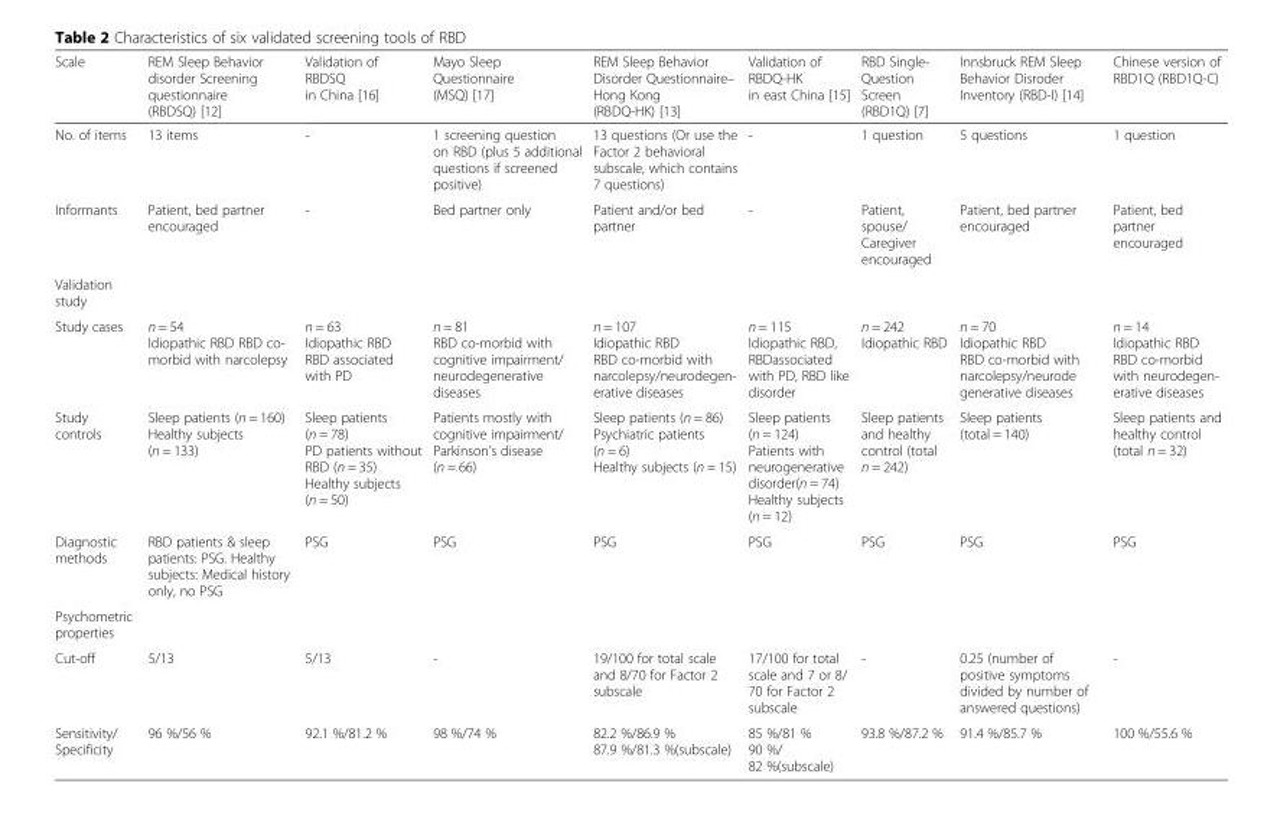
<table><thead><tr><td>Scale</td><td>REM Sleep Behavior disorder Screening questionnaire (RBDSQ) [12]</td><td>Validation of RBDSQ in China [16]</td><td>Mayo Sleep Questionnaire (MSQ) [17]</td><td>REM Sleep Behavior Disorder Questionnaire– Hong Kong (RBDQ-HK) [13]</td><td>Validation of RBDQ-HK in east China [15]</td><td>RBD Single- Question Screen (RBD1Q) [7]</td><td>Innsbruck REM Sleep Behavior Disroder Inventory (RBD-I) [14]</td><td>Chinese version of RBD1Q (RBD1Q-C)</td></tr></thead><tbody><tr><td>No. of items</td><td>13 items</td><td>-</td><td>1 screening question on RBD (plus 5 additional questions if screened positive)</td><td>13 questions (Or use the Factor 2 behavioral subscale, which contains 7 questions)</td><td>-</td><td>1 question</td><td>5 questions</td><td>1 question</td></tr><tr><td>Informants</td><td>Patient, bed partner encouraged</td><td>-</td><td>Bed partner only</td><td>Patient and/or bed partner</td><td>-</td><td>Patient, spouse/ Caregiver encouraged</td><td>Patient, bed partner encouraged</td><td>Patient, bed partner encouraged</td></tr><tr><td colspan="9">Validation study</td></tr><tr><td>Study cases</td><td>n = 54 Idiopathic RBD RBD co- morbid with narcolepsy</td><td>n = 63 Idiopathic RBD RBD associated with PD</td><td>n = 81 RBD co-morbid with cognitive impairment/ neurodegenerative diseases</td><td>n = 107 Idiopathic RBD RBD co-morbid with narcolepsy/neurodegen- erative diseases</td><td>n = 115 Idiopathic RBD, RBDassociated with PD, RBD like disorder</td><td>n = 242 Idiopathic RBD</td><td>n = 70 Idiopathic RBD RBD co-morbid with narcolepsy/neurode generative diseases</td><td>n = 14 Idiopathic RBD RBD co-morbid with neurodegen- erative diseases</td></tr><tr><td>Study controls</td><td>Sleep patients (n = 160) Healthy subjects (n = 133)</td><td>Sleep patients (n = 78) PD patients without RBD (n = 35) Healthy subjects (n = 50)</td><td>Patients mostly with cognitive impairment/ Parkinson’s disease (n = 66)</td><td>Sleep patients (n = 86) Psychiatric patients (n = 6) Healthy subjects (n = 15)</td><td>Sleep patients (n = 124) Patients with neurogenerative disorder(n = 74) Healthy subjects (n = 12)</td><td>Sleep patients and healthy control (total n = 242)</td><td>Sleep patients (total = 140)</td><td>Sleep patients and healthy control (total n = 32)</td></tr><tr><td>Diagnostic methods</td><td>RBD patients &amp; sleep patients: PSG. Healthy subjects: Medical history only, no PSG</td><td>PSG</td><td>PSG</td><td>PSG</td><td>PSG</td><td>PSG</td><td>PSG</td><td>PSG</td></tr><tr><td colspan="9">Psychometric properties</td></tr><tr><td>Cut-off</td><td>5/13</td><td>5/13</td><td>-</td><td>19/100 for total scale and 8/70 for Factor 2 subscale</td><td>17/100 for total scale and 7 or 8/ 70 for Factor 2 subscale</td><td>-</td><td>0.25 (number of positive symptoms divided by number of answered questions)</td><td>-</td></tr><tr><td>Sensitivity/ Specificity</td><td>96 %/56 %</td><td>92.1 %/81.2 %</td><td>98 %/74 %</td><td>82.2 %/86.9 % 87.9 %/81.3 %(subscale)</td><td>85 %/81 % 90 %/ 82 %(subscale)</td><td>93.8 %/87.2 %</td><td>91.4 %/85.7 %</td><td>100 %/55.6 %</td></tr></tbody></table>